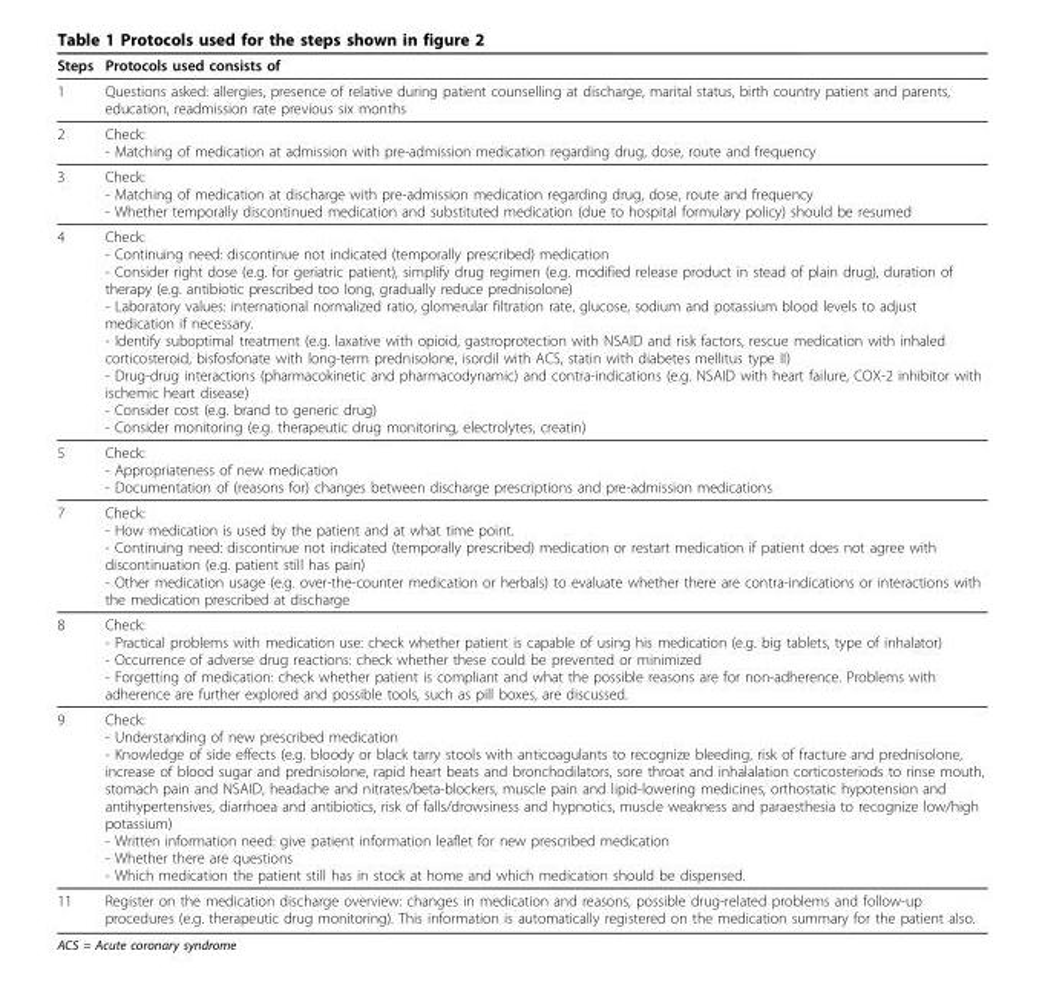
<table><thead><tr><td>Steps</td><td>Protocols used consists of</td></tr></thead><tbody><tr><td>1</td><td>Questions asked: allergies, presence of relative during patient counselling at discharge, marital status, birth country patient and parents, education, readmission rate previous six months</td></tr><tr><td>2</td><td>Check: - Matching of medication at admission with pre-admission medication regarding drug, dose, route and frequency</td></tr><tr><td>3</td><td>Check: - Matching of medication at discharge with pre-admission medication regarding drug, dose, route and frequency - Whether temporally discontinued medication and substituted medication (due to hospital formulary policy) should be resumed</td></tr><tr><td>4</td><td>Check: - Continuing need: discontinue not indicated (temporally prescribed) medication - Consider right dose (e.g. for geriatric patient), simplify drug regimen (e.g. modified release product in stead of plain drug), duration of therapy (e.g. antibiotic prescribed too long, gradually reduce prednisolone) - Laboratory values: international normalized ratio, glomerular filtration rate, glucose, sodium and potassium blood levels to adjust medication if necessary. - Identify suboptimal treatment (e.g. laxative with opioid, gastroprotection with NSAID and risk factors, rescue medication with inhaled corticosteroid, bisfosfonate with long-term prednisolone, isordil with ACS, statin with diabetes mellitus type II) - Drug-drug interactions (pharmacokinetic and pharmacodynamic) and contra-indications (e.g. NSAID with heart failure, COX-2 inhibitor with ischemic heart disease) - Consider cost (e.g. brand to generic drug) - Consider monitoring (e.g. therapeutic drug monitoring, electrolytes, creatin)</td></tr><tr><td>5</td><td>Check: - Appropriateness of new medication - Documentation of (reasons for) changes between discharge prescriptions and pre-admission medications</td></tr><tr><td>7</td><td>Check: - How medication is used by the patient and at what time point. - Continuing need: discontinue not indicated (temporally prescribed) medication or restart medication if patient does not agree with discontinuation (e.g. patient still has pain) - Other medication usage (e.g. over-the-counter medication or herbals) to evaluate whether there are contra-indications or interactions with the medication prescribed at discharge</td></tr><tr><td>8</td><td>Check: - Practical problems with medication use: check whether patient is capable of using his medication (e.g. big tablets, type of inhalator) - Occurrence of adverse drug reactions: check whether these could be prevented or minimized - Forgetting of medication: check whether patient is compliant and what the possible reasons are for non-adherence. Problems with adherence are further explored and possible tools, such as pill boxes, are discussed.</td></tr><tr><td>9</td><td>Check: - Understanding of new prescribed medication - Knowledge of side effects (e.g. bloody or black tarry stools with anticoagulants to recognize bleeding, risk of fracture and prednisolone, increase of blood sugar and prednisolone, rapid heart beats and bronchodilators, sore throat and inhalalation corticosteriods to rinse mouth, stomach pain and NSAID, headache and nitrates/beta-blockers, muscle pain and lipid-lowering medicines, orthostatic hypotension and antihypertensives, diarrhoea and antibiotics, risk of falls/drowsiness and hypnotics, muscle weakness and paraesthesia to recognize low/high potassium) - Written information need: give patient information leaflet for new prescribed medication - Whether there are questions - Which medication the patient still has in stock at home and which medication should be dispensed.</td></tr><tr><td>11</td><td>Register on the medication discharge overview: changes in medication and reasons, possible drug-related problems and follow-up procedures (e.g. therapeutic drug monitoring). This information is automatically registered on the medication summary for the patient also.</td></tr></tbody></table>